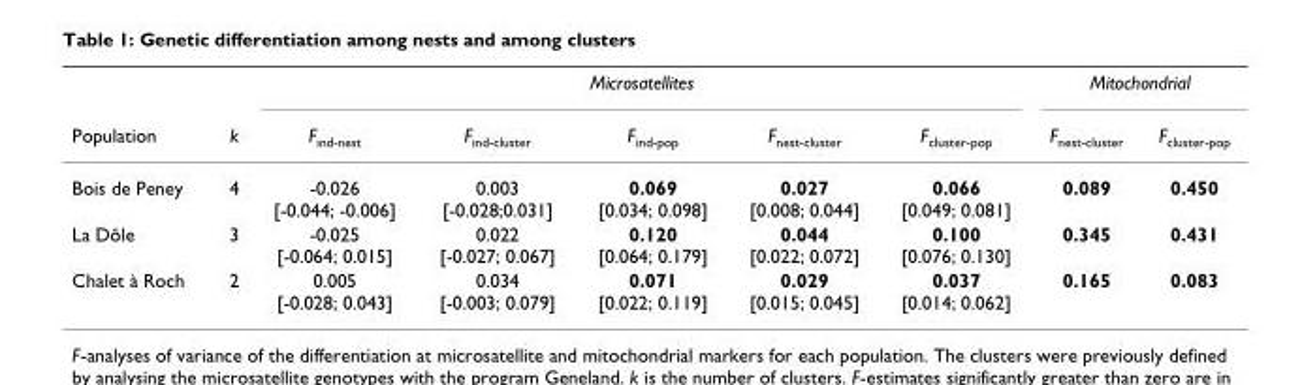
<table><thead><tr><td rowspan="2">Population</td><td rowspan="2">k</td><td colspan="5">Microsatellites</td><td colspan="2">Mitochondrial</td></tr><tr><td>F<sub>ind-nest</sub></td><td>F<sub>ind-cluster</sub></td><td>F<sub>ind-pop</sub></td><td>F<sub>nest-cluster</sub></td><td>F<sub>cluster-pop</sub></td><td>F<sub>nest-cluster</sub></td><td>F<sub>cluster-pop</sub></td></tr></thead><tbody><tr><td>Bois de Peney</td><td>4</td><td>-0.026 [-0.044; -0.006]</td><td>0.003 [-0.028;0.031]</td><td>0.069 [0.034; 0.098]</td><td>0.027 [0.008; 0.044]</td><td>0.066 [0.049; 0.081]</td><td>0.089</td><td>0.450</td></tr><tr><td>La Dôle</td><td>3</td><td>-0.025 [-0.064; 0.015]</td><td>0.022 [-0.027; 0.067]</td><td>0.120 [0.064; 0.179]</td><td>0.044 [0.022; 0.072]</td><td>0.100 [0.076; 0.130]</td><td>0.345</td><td>0.431</td></tr><tr><td>Chalet à Roch</td><td>2</td><td>0.005 [-0.028; 0.043]</td><td>0.034 [-0.003; 0.079]</td><td>0.071 [0.022; 0.119]</td><td>0.029 [0.015; 0.045]</td><td>0.037 [0.014; 0.062]</td><td>0.165</td><td>0.083</td></tr></tbody></table>